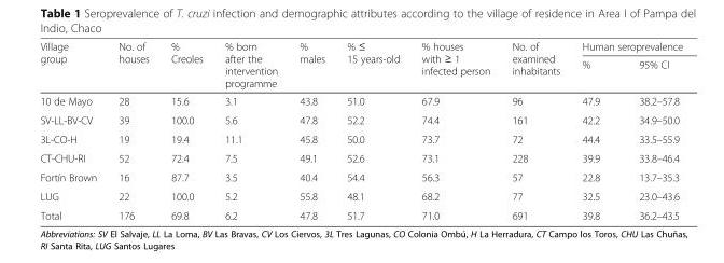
<table><thead><tr><td rowspan="2">Village group</td><td rowspan="2">No. of houses</td><td rowspan="2">% Creoles</td><td rowspan="2">% born after the intervention programme</td><td rowspan="2">% males</td><td rowspan="2">% ≤ 15 years-old</td><td rowspan="2">% houses with ≥ 1 infected person</td><td rowspan="2">No. of examined inhabitants</td><td colspan="2">Human seroprevalence</td></tr><tr><td>%</td><td>95% CI</td></tr></thead><tbody><tr><td>10 de Mayo</td><td>28</td><td>15.6</td><td>3.1</td><td>43.8</td><td>51.0</td><td>67.9</td><td>96</td><td>47.9</td><td>38.2–57.8</td></tr><tr><td>SV-LL-BV-CV</td><td>39</td><td>100.0</td><td>5.6</td><td>47.8</td><td>52.2</td><td>74.4</td><td>161</td><td>42.2</td><td>34.9–50.0</td></tr><tr><td>3L-CO-H</td><td>19</td><td>19.4</td><td>11.1</td><td>45.8</td><td>50.0</td><td>73.7</td><td>72</td><td>44.4</td><td>33.5–55.9</td></tr><tr><td>CT-CHU-RI</td><td>52</td><td>72.4</td><td>7.5</td><td>49.1</td><td>52.6</td><td>73.1</td><td>228</td><td>39.9</td><td>33.8–46.4</td></tr><tr><td>Fortín Brown</td><td>16</td><td>87.7</td><td>3.5</td><td>40.4</td><td>54.4</td><td>56.3</td><td>57</td><td>22.8</td><td>13.7–35.3</td></tr><tr><td>LUG</td><td>22</td><td>100.0</td><td>5.2</td><td>55.8</td><td>48.1</td><td>68.2</td><td>77</td><td>32.5</td><td>23.0–43.6</td></tr><tr><td>Total</td><td>176</td><td>69.8</td><td>6.2</td><td>47.8</td><td>51.7</td><td>71.0</td><td>691</td><td>39.8</td><td>36.2–43.5</td></tr></tbody></table>